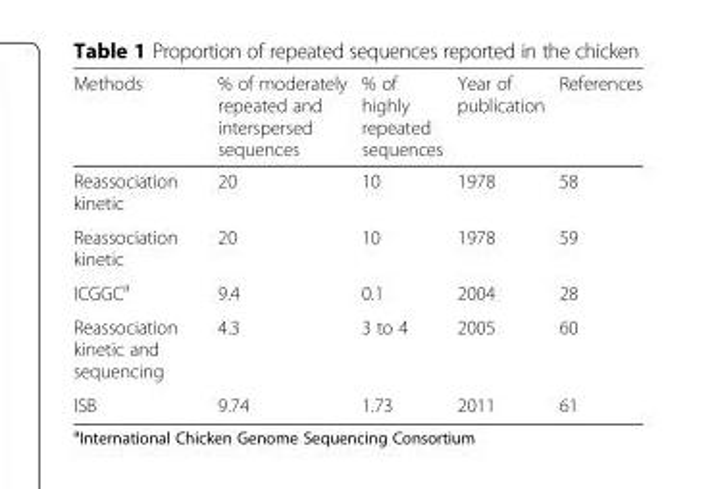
<table><thead><tr><td>Methods</td><td>% of moderately repeated and interspersed sequences</td><td>% of highly repeated sequences</td><td>Year of publication</td><td>References</td></tr></thead><tbody><tr><td>Reassociation kinetic</td><td>20</td><td>10</td><td>1978</td><td>58</td></tr><tr><td>Reassociation kinetic</td><td>20</td><td>10</td><td>1978</td><td>59</td></tr><tr><td>ICGGC<sup>a</sup></td><td>9.4</td><td>0.1</td><td>2004</td><td>28</td></tr><tr><td>Reassociation kinetic and sequencing</td><td>4.3</td><td>3 to 4</td><td>2005</td><td>60</td></tr><tr><td>ISB</td><td>9.74</td><td>1.73</td><td>2011</td><td>61</td></tr></tbody></table>